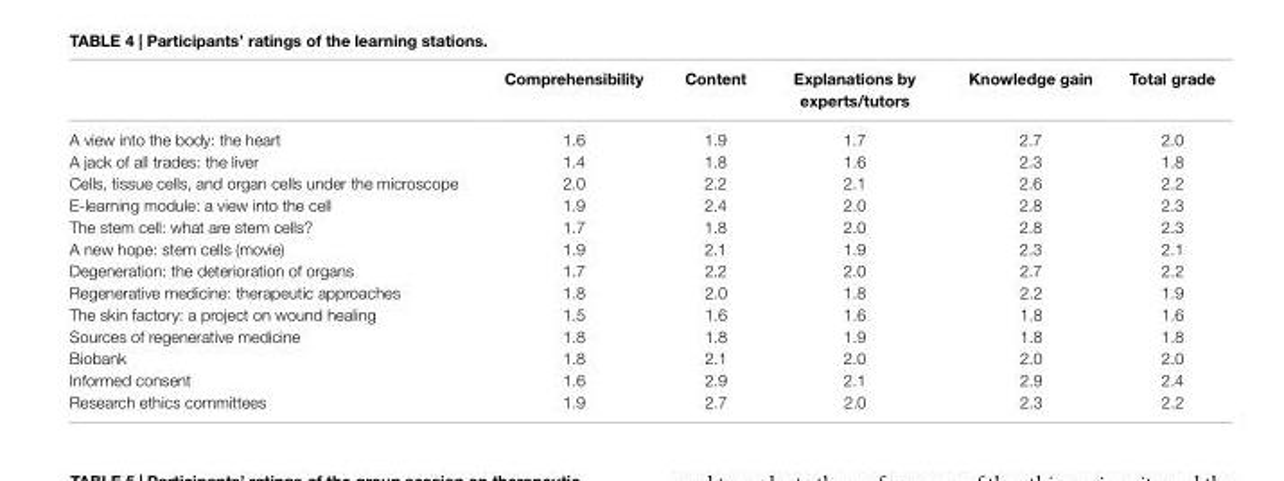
<table><thead><tr><td></td><td>Comprehensibility</td><td>Content</td><td>explanations by experts/tutors</td><td>Knowledge gain</td><td>total grade</td></tr></thead><tbody><tr><td>A view into the body: the heart</td><td>1.6</td><td>1.9</td><td>1.7</td><td>2.7</td><td>2.0</td></tr><tr><td>A jack of all trades: the liver</td><td>1.4</td><td>1.8</td><td>1.6</td><td>2.3</td><td>1.8</td></tr><tr><td>Cells, tissue cells, and organ cells under the microscope</td><td>2.0</td><td>2.2</td><td>2.1</td><td>2.6</td><td>2.2</td></tr><tr><td>E-learning module: a view into the cell</td><td>1.9</td><td>2.4</td><td>2.0</td><td>2.8</td><td>2.3</td></tr><tr><td>The stem cell: what are stem cells?</td><td>1.7</td><td>1.8</td><td>2.0</td><td>2.8</td><td>2.3</td></tr><tr><td>A new hope: stem cells (movie)</td><td>1.9</td><td>2.1</td><td>1.9</td><td>2.3</td><td>2.1</td></tr><tr><td>Degeneration: the deterioration of organs</td><td>1.7</td><td>2.2</td><td>2.0</td><td>2.7</td><td>2.2</td></tr><tr><td>Regenerative medicine: therapeutic approaches</td><td>1.8</td><td>2.0</td><td>1.8</td><td>2.2</td><td>1.9</td></tr><tr><td>The skin factory: a project on wound healing</td><td>1.5</td><td>1.6</td><td>1.6</td><td>1.8</td><td>1.6</td></tr><tr><td>Sources of regenerative medicine</td><td>1.8</td><td>1.8</td><td>1.9</td><td>1.8</td><td>1.8</td></tr><tr><td>Biobank</td><td>1.8</td><td>2.1</td><td>2.0</td><td>2.0</td><td>2.0</td></tr><tr><td>Informed consent</td><td>1.6</td><td>2.9</td><td>2.1</td><td>2.9</td><td>2.4</td></tr><tr><td>Research ethics committees</td><td>1.9</td><td>2.7</td><td>2.0</td><td>2.3</td><td>2.2</td></tr></tbody></table>